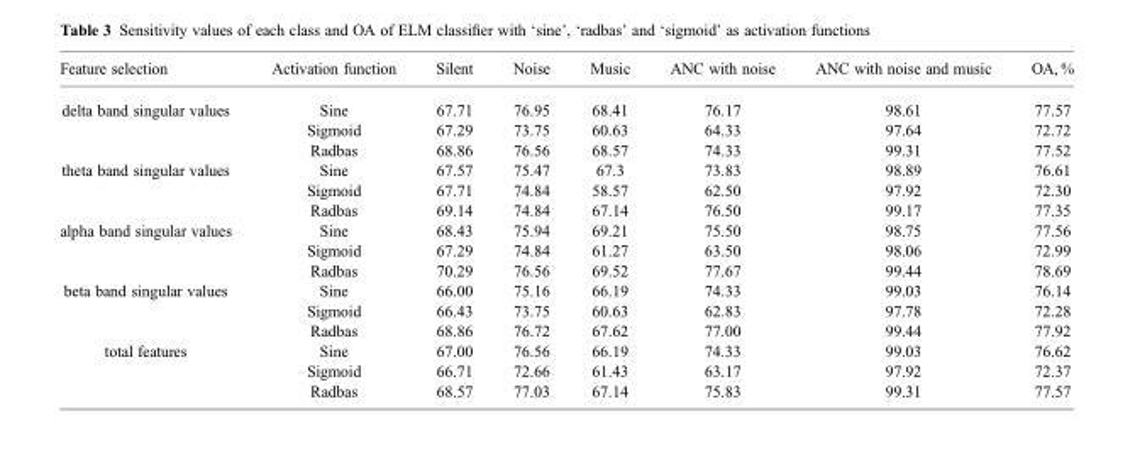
<table><thead><tr><td>Feature selection</td><td>Activation function</td><td>Silent</td><td>Noise</td><td>Music</td><td>ANC with noise</td><td>ANC with noise and music</td><td>OA, %</td></tr></thead><tbody><tr><td rowspan="3">delta band singular values</td><td>Sine</td><td>67.71</td><td>76.95</td><td>68.41</td><td>76.17</td><td>98.61</td><td>77.57</td></tr><tr><td>Sigmoid</td><td>67.29</td><td>73.75</td><td>60.63</td><td>64.33</td><td>97.64</td><td>72.72</td></tr><tr><td>Radbas</td><td>68.86</td><td>76.56</td><td>68.57</td><td>74.33</td><td>99.31</td><td>77.52</td></tr><tr><td rowspan="3">theta band singular values</td><td>Sine</td><td>67.57</td><td>75.47</td><td>67.3</td><td>73.83</td><td>98.89</td><td>76.61</td></tr><tr><td>Sigmoid</td><td>67.71</td><td>74.84</td><td>58.57</td><td>62.50</td><td>97.92</td><td>72.30</td></tr><tr><td>Radbas</td><td>69.14</td><td>74.84</td><td>67.14</td><td>76.50</td><td>99.17</td><td>77.35</td></tr><tr><td rowspan="3">alpha band singular values</td><td>Sine</td><td>68.43</td><td>75.94</td><td>69.21</td><td>75.50</td><td>98.75</td><td>77.56</td></tr><tr><td>Sigmoid</td><td>67.29</td><td>74.84</td><td>61.27</td><td>63.50</td><td>98.06</td><td>72.99</td></tr><tr><td>Radbas</td><td>70.29</td><td>76.56</td><td>69.52</td><td>77.67</td><td>99.44</td><td>78.69</td></tr><tr><td rowspan="3">beta band singular values</td><td>Sine</td><td>66.00</td><td>75.16</td><td>66.19</td><td>74.33</td><td>99.03</td><td>76.14</td></tr><tr><td>Sigmoid</td><td>66.43</td><td>73.75</td><td>60.63</td><td>62.83</td><td>97.78</td><td>72.28</td></tr><tr><td>Radbas</td><td>68.86</td><td>76.72</td><td>67.62</td><td>77.00</td><td>99.44</td><td>77.92</td></tr><tr><td rowspan="3">total features</td><td>Sine</td><td>67.00</td><td>76.56</td><td>66.19</td><td>74.33</td><td>99.03</td><td>76.62</td></tr><tr><td>Sigmoid</td><td>66.71</td><td>72.66</td><td>61.43</td><td>63.17</td><td>97.92</td><td>72.37</td></tr><tr><td>Radbas</td><td>68.57</td><td>77.03</td><td>67.14</td><td>75.83</td><td>99.31</td><td>77.57</td></tr></tbody></table>